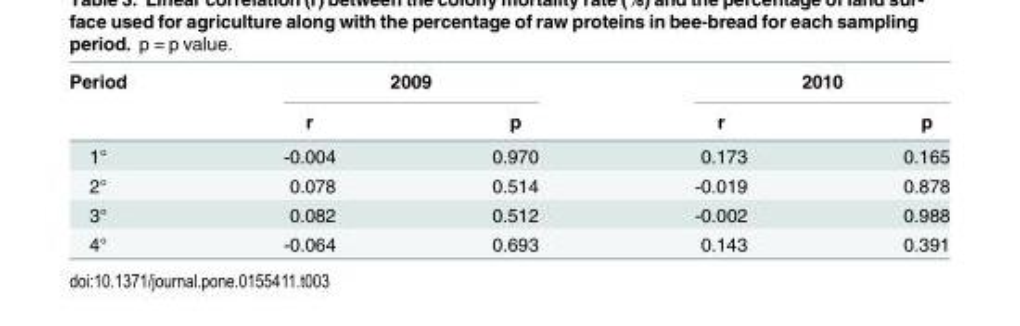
<table><thead><tr><td rowspan="2">Period</td><td colspan="2">2009</td><td colspan="2">2010</td></tr><tr><td>r</td><td>p</td><td>r</td><td>p</td></tr></thead><tbody><tr><td>1°</td><td>-0.004</td><td>0.970</td><td>0.173</td><td>0.165</td></tr><tr><td>2°</td><td>0.078</td><td>0.514</td><td>-0.019</td><td>0.878</td></tr><tr><td>3°</td><td>0.082</td><td>0.512</td><td>-0.002</td><td>0.988</td></tr><tr><td>4°</td><td>-0.064</td><td>0.693</td><td>0.143</td><td>0.391</td></tr></tbody></table>